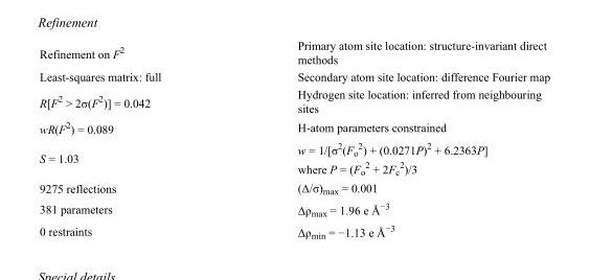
<table><tbody><tr><td>Refinement on F<sup>2</sup></td><td>Primary atom site location: structure-invariant direct methods</td></tr><tr><td>Least-squares matrix: full</td><td>Secondary atom site location: difference Fourier map</td></tr><tr><td>R[F<sup>2</sup> &gt; 2σ(F<sup>2</sup>)] = 0.042</td><td>Hydrogen site location: inferred from neighbouring sites</td></tr><tr><td>wR(F<sup>2</sup>) = 0.089</td><td>H-atom parameters constrained</td></tr><tr><td>S = 1.03</td><td>w = 1/[σ<sup>2</sup>(F<sub>o</sub> <sup>2</sup>) + (0.0271P)<sup>2</sup> + 6.2363P] where P = (F<sub>o</sub> <sup>2</sup> + 2F<sub>c</sub> <sup>2</sup>)/3</td></tr><tr><td>9275 reflections</td><td>(Δ/σ)<sub>max</sub> = 0.001</td></tr><tr><td>381 parameters</td><td>Δρ<sub>max</sub> = 1.96 e Å<sup>−3</sup></td></tr><tr><td>0 restraints</td><td>Δρ<sub>min</sub> = −1.13 e Å<sup>−3</sup></td></tr></tbody></table>